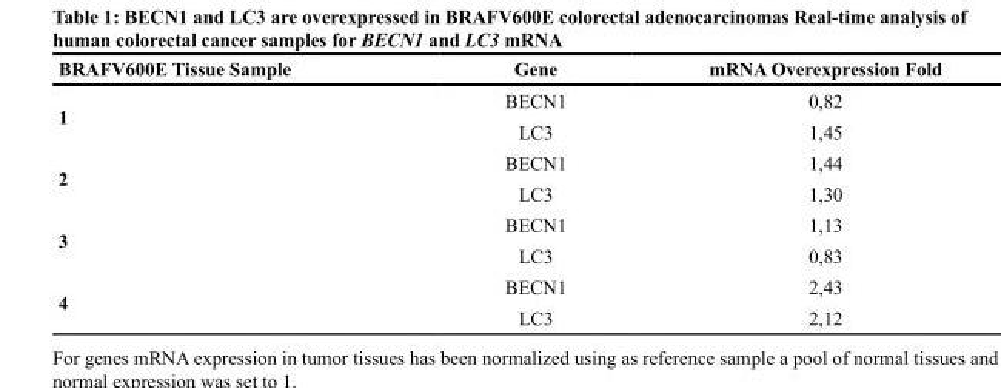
<table><thead><tr><td>BRAFV600E Tissue Sample</td><td>Gene</td><td>mRNA Overexpression Fold</td></tr></thead><tbody><tr><td rowspan="2">1</td><td>BECN1</td><td>0,82</td></tr><tr><td>LC3</td><td>1,45</td></tr><tr><td rowspan="2">2</td><td>BECN1</td><td>1,44</td></tr><tr><td>LC3</td><td>1,30</td></tr><tr><td rowspan="2">3</td><td>BECN1</td><td>1,13</td></tr><tr><td>LC3</td><td>0,83</td></tr><tr><td rowspan="2">4</td><td>BECN1</td><td>2,43</td></tr><tr><td>LC3</td><td>2,12</td></tr></tbody></table>